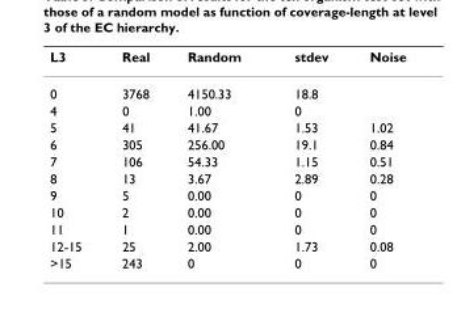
<table><thead><tr><td>L3</td><td>Real</td><td>Random</td><td>stdev</td><td>Noise</td></tr></thead><tbody><tr><td>0</td><td>3768</td><td>4150.33</td><td>18.8</td><td></td></tr><tr><td>4</td><td>0</td><td>1.00</td><td>0</td><td></td></tr><tr><td>5</td><td>41</td><td>41.67</td><td>1.53</td><td>1.02</td></tr><tr><td>6</td><td>305</td><td>256.00</td><td>19.1</td><td>0.84</td></tr><tr><td>7</td><td>106</td><td>54.33</td><td>1.15</td><td>0.51</td></tr><tr><td>8</td><td>13</td><td>3.67</td><td>2.89</td><td>0.28</td></tr><tr><td>9</td><td>5</td><td>0.00</td><td>0</td><td>0</td></tr><tr><td>10</td><td>2</td><td>0.00</td><td>0</td><td>0</td></tr><tr><td>11</td><td>1</td><td>0.00</td><td>0</td><td>0</td></tr><tr><td>12-15</td><td>25</td><td>2.00</td><td>1.73</td><td>0.08</td></tr><tr><td>&gt;15</td><td>243</td><td>0</td><td>0</td><td>0</td></tr></tbody></table>